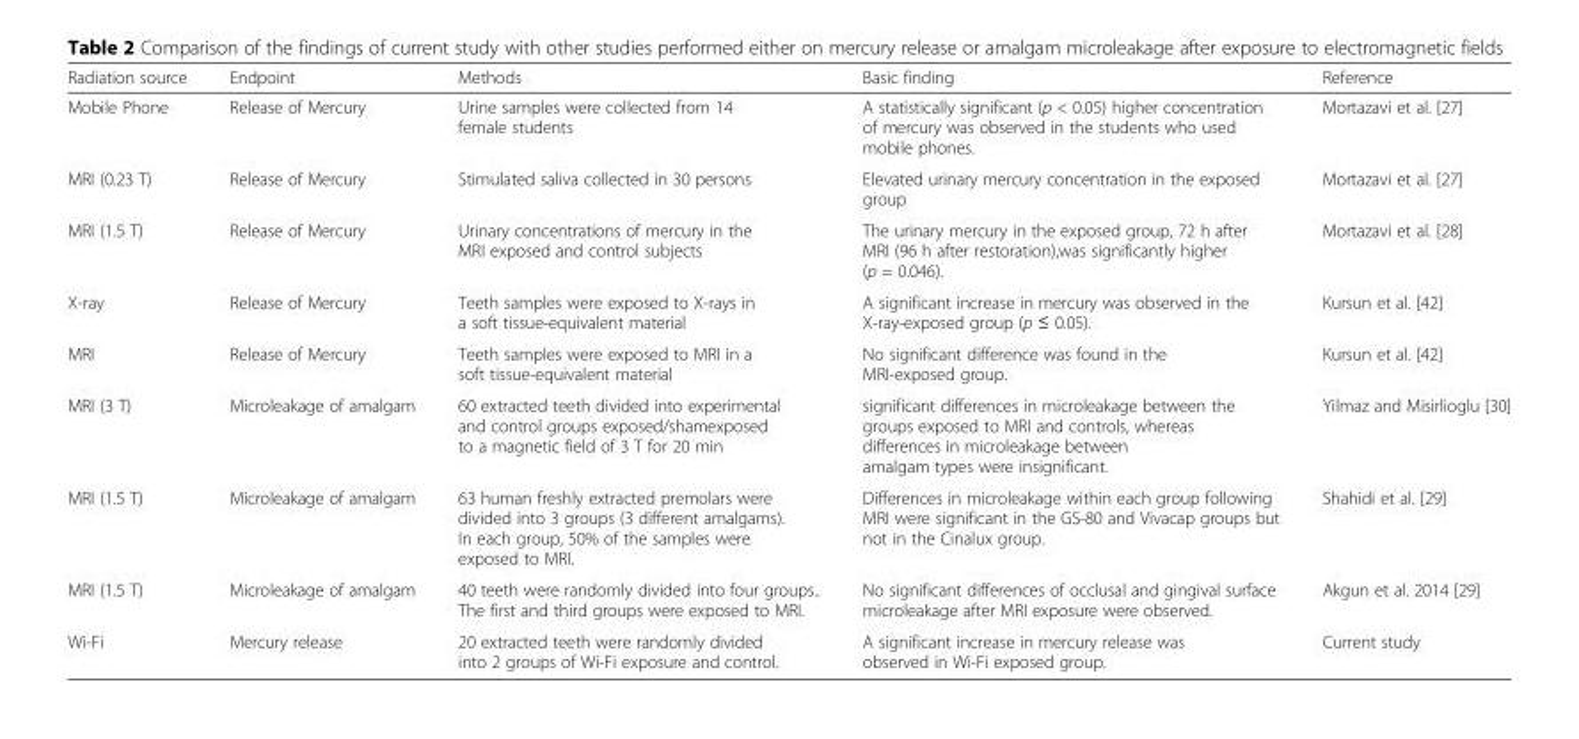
<table><thead><tr><td>Radiation source</td><td>Endpoint</td><td>Methods</td><td>Basic finding</td><td>Reference</td></tr></thead><tbody><tr><td>Mobile Phone</td><td>Release of Mercury</td><td>Urine samples were collected from 14 female students</td><td>A statistically significant (p &lt; 0.05) higher concentration of mercury was observed in the students who used mobile phones.</td><td>Mortazavi et al. [27]</td></tr><tr><td>MRI (0.23 T)</td><td>Release of Mercury</td><td>Stimulated saliva collected in 30 persons</td><td>Elevated urinary mercury concentration in the exposed group</td><td>Mortazavi et al. [27]</td></tr><tr><td>MRI (1.5 T)</td><td>Release of Mercury</td><td>Urinary concentrations of mercury in the MRI exposed and control subjects</td><td>The urinary mercury in the exposed group, 72 h after MRI (96 h after restoration),was significantly higher (p = 0.046).</td><td>Mortazavi et al. [28]</td></tr><tr><td>X-ray</td><td>Release of Mercury</td><td>Teeth samples were exposed to X-rays in a soft tissue-equivalent material</td><td>A significant increase in mercury was observed in the X-ray-exposed group (p ≤ 0.05).</td><td>Kursun et al. [42]</td></tr><tr><td>MRI</td><td>Release of Mercury</td><td>Teeth samples were exposed to MRI in a soft tissue-equivalent material</td><td>No significant difference was found in the MRI-exposed group.</td><td>Kursun et al. [42]</td></tr><tr><td>MRI (3 T)</td><td>Microleakage of amalgam</td><td>60 extracted teeth divided into experimental and control groups exposed/shamexposed to a magnetic field of 3 T for 20 min</td><td>significant differences in microleakage between the groups exposed to MRI and controls, whereas differences in microleakage between amalgam types were insignificant.</td><td>Yilmaz and Misirlioglu [30]</td></tr><tr><td>MRI (1.5 T)</td><td>Microleakage of amalgam</td><td>63 human freshly extracted premolars were divided into 3 groups (3 different amalgams). In each group, 50% of the samples were exposed to MRI.</td><td>Differences in microleakage within each group following MRI were significant in the GS-80 and Vivacap groups but not in the Cinalux group.</td><td>Shahidi et al. [29]</td></tr><tr><td>MRI (1.5 T)</td><td>Microleakage of amalgam</td><td>40 teeth were randomly divided into four groups.. The first and third groups were exposed to MRI.</td><td>No significant differences of occlusal and gingival surface microleakage after MRI exposure were observed.</td><td>Akgun et al. 2014 [29]</td></tr><tr><td>Wi-Fi</td><td>Mercury release</td><td>20 extracted teeth were randomly divided into 2 groups of Wi-Fi exposure and control.</td><td>A significant increase in mercury release was observed in Wi-Fi exposed group.</td><td>Current study</td></tr></tbody></table>